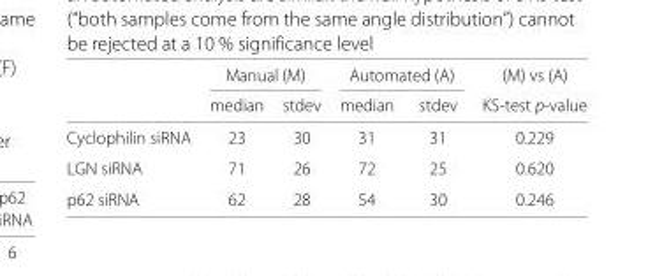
<table><thead><tr><td rowspan="2"></td><td colspan="2">Manual (M)</td><td colspan="2">Automated (A)</td><td rowspan="2">(M) vs (A) KS-test p-value</td></tr><tr><td>median</td><td>stdev</td><td>median</td><td>stdev</td></tr></thead><tbody><tr><td>Cyclophilin siRNA</td><td>23</td><td>30</td><td>31</td><td>31</td><td>0.229</td></tr><tr><td>LGN siRNA</td><td>71</td><td>26</td><td>72</td><td>25</td><td>0.620</td></tr><tr><td>p62 siRNA</td><td>62</td><td>28</td><td>54</td><td>30</td><td>0.246</td></tr></tbody></table>